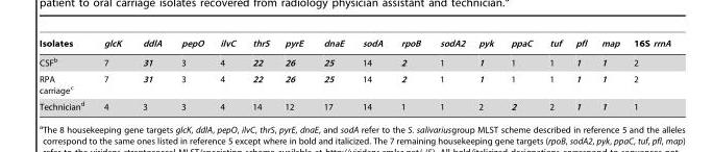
<table><thead><tr><td>Isolates</td><td>glcK</td><td>ddlA</td><td>pepO</td><td>ilvC</td><td>thrS</td><td>pyrE</td><td>dnaE</td><td>sodA</td><td>rpoB</td><td>sodA2</td><td>pyk</td><td>ppaC</td><td>tuf</td><td>pfl</td><td>map</td><td>16S rrnA</td></tr></thead><tbody><tr><td>CSF<sup>b</sup></td><td>7</td><td>31</td><td>3</td><td>4</td><td>22</td><td>26</td><td>25</td><td>14</td><td>2</td><td>1</td><td>1</td><td>1</td><td>1</td><td>1</td><td>1</td><td>2</td></tr><tr><td>RPA carriage<sup>c</sup></td><td>7</td><td>31</td><td>3</td><td>4</td><td>22</td><td>26</td><td>25</td><td>14</td><td>2</td><td>1</td><td>1</td><td>1</td><td>1</td><td>1</td><td>1</td><td>2</td></tr><tr><td>Technician<sup>d</sup></td><td>4</td><td>3</td><td>3</td><td>4</td><td>14</td><td>12</td><td>17</td><td>14</td><td>1</td><td>1</td><td>2</td><td>2</td><td>2</td><td>1</td><td>1</td><td>1</td></tr></tbody></table>